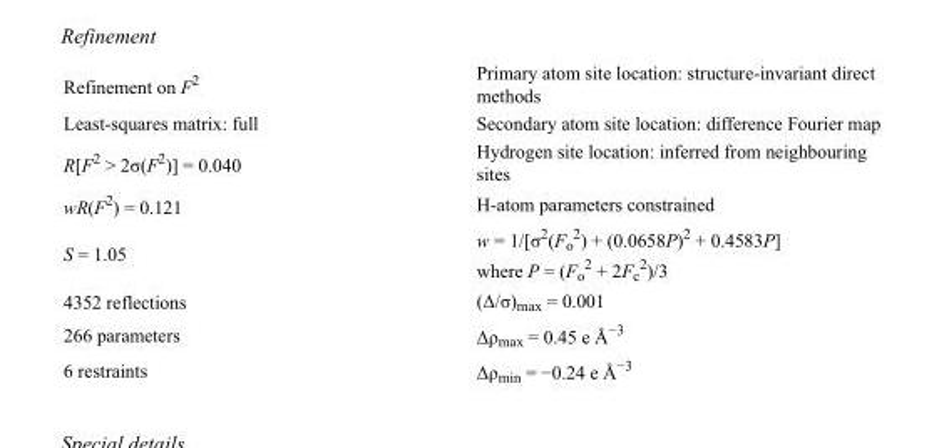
<table><tbody><tr><td>Refinement on F<sup>2</sup></td><td>Primary atom site location: structure-invariant direct methods</td></tr><tr><td>Least-squares matrix: full</td><td>Secondary atom site location: difference Fourier map</td></tr><tr><td>R[F<sup>2</sup> &gt; 2σ(F<sup>2</sup>)] = 0.040</td><td>Hydrogen site location: inferred from neighbouring sites</td></tr><tr><td>wR(F<sup>2</sup>) = 0.121</td><td>H-atom parameters constrained</td></tr><tr><td>S = 1.05</td><td>w = 1/[σ<sup>2</sup>(F<sub>o</sub> <sup>2</sup>) + (0.0658P)<sup>2</sup> + 0.4583P] where P = (F<sub>o</sub> <sup>2</sup> + 2F<sub>c</sub> <sup>2</sup>)/3</td></tr><tr><td>4352 reflections</td><td>(Δ/σ)<sub>max</sub> = 0.001</td></tr><tr><td>266 parameters</td><td>Δρ<sub>max</sub> = 0.45 e Å<sup>−3</sup></td></tr><tr><td>6 restraints</td><td>Δρ<sub>min</sub> = −0.24 e Å<sup>−3</sup></td></tr></tbody></table>